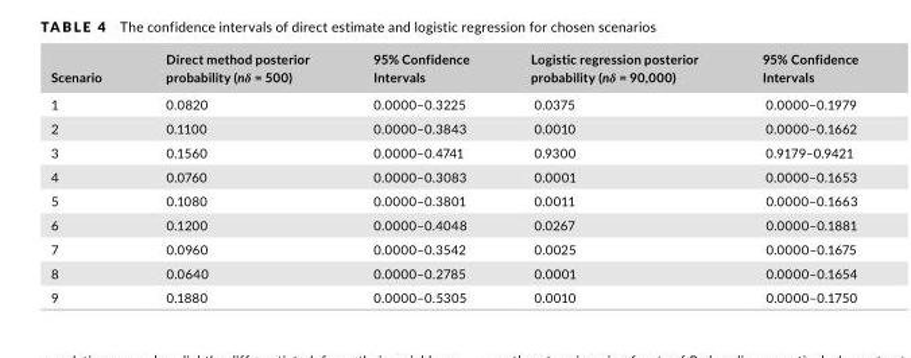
<table><thead><tr><td>Scenario</td><td>Direct method posterior probability (nδ = 500)</td><td>95% Confidence Intervals</td><td>Logistic regression posterior probability (nδ = 90,000)</td><td>95% Confidence Intervals</td></tr></thead><tbody><tr><td>1</td><td>0.0820</td><td>0.0000–0.3225</td><td>0.0375</td><td>0.0000–0.1979</td></tr><tr><td>2</td><td>0.1100</td><td>0.0000–0.3843</td><td>0.0010</td><td>0.0000–0.1662</td></tr><tr><td>3</td><td>0.1560</td><td>0.0000–0.4741</td><td>0.9300</td><td>0.9179–0.9421</td></tr><tr><td>4</td><td>0.0760</td><td>0.0000–0.3083</td><td>0.0001</td><td>0.0000–0.1653</td></tr><tr><td>5</td><td>0.1080</td><td>0.0000–0.3801</td><td>0.0011</td><td>0.0000–0.1663</td></tr><tr><td>6</td><td>0.1200</td><td>0.0000–0.4048</td><td>0.0267</td><td>0.0000–0.1881</td></tr><tr><td>7</td><td>0.0960</td><td>0.0000–0.3542</td><td>0.0025</td><td>0.0000–0.1675</td></tr><tr><td>8</td><td>0.0640</td><td>0.0000–0.2785</td><td>0.0001</td><td>0.0000–0.1654</td></tr><tr><td>9</td><td>0.1880</td><td>0.0000–0.5305</td><td>0.0010</td><td>0.0000–0.1750</td></tr></tbody></table>